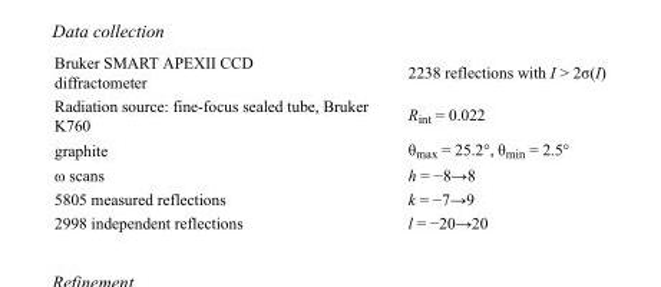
<table><tbody><tr><td>Bruker SMART APEXII CCD diffractometer</td><td>2238 reflections with I &gt; 2σ(I)</td></tr><tr><td>Radiation source: fine-focus sealed tube, Bruker K760</td><td>R<sub>int</sub> = 0.022</td></tr><tr><td>graphite</td><td>θ<sub>max</sub> = 25.2°, θ<sub>min</sub> = 2.5°</td></tr><tr><td>ω scans</td><td>h = −8→8</td></tr><tr><td>5805 measured reflections</td><td>k = −7→9</td></tr><tr><td>2998 independent reflections</td><td>l = −20→20</td></tr></tbody></table>